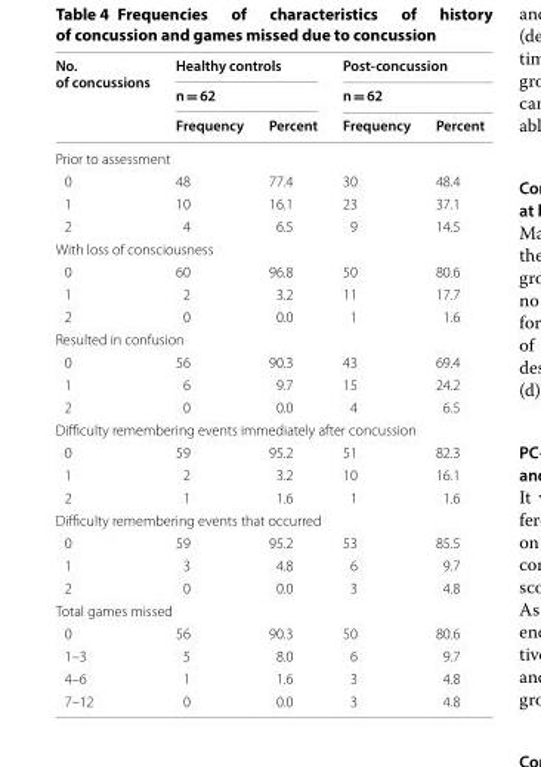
<table><thead><tr><td rowspan="3">No. of concussions</td><td rowspan="2" colspan="2">Healthy controls n = 62</td><td rowspan="2" colspan="2">Post-concussion n = 62</td></tr><tr></tr><tr><td>Frequency</td><td>Percent</td><td>Frequency</td><td>Percent</td></tr></thead><tbody><tr><td colspan="5">Prior to assessment</td></tr><tr><td>0</td><td>48</td><td>77.4</td><td>30</td><td>48.4</td></tr><tr><td>1</td><td>10</td><td>16.1</td><td>23</td><td>37.1</td></tr><tr><td>2</td><td>4</td><td>6.5</td><td>9</td><td>14.5</td></tr><tr><td colspan="5">With loss of consciousness</td></tr><tr><td>0</td><td>60</td><td>96.8</td><td>50</td><td>80.6</td></tr><tr><td>1</td><td>2</td><td>3.2</td><td>11</td><td>17.7</td></tr><tr><td>2</td><td>0</td><td>0.0</td><td>1</td><td>1.6</td></tr><tr><td colspan="5">Resulted in confusion</td></tr><tr><td>0</td><td>56</td><td>90.3</td><td>43</td><td>69.4</td></tr><tr><td>1</td><td>6</td><td>9.7</td><td>15</td><td>24.2</td></tr><tr><td>2</td><td>0</td><td>0.0</td><td>4</td><td>6.5</td></tr><tr><td colspan="5">Difficulty remembering events immediately after concussion</td></tr><tr><td>0</td><td>59</td><td>95.2</td><td>51</td><td>82.3</td></tr><tr><td>1</td><td>2</td><td>3.2</td><td>10</td><td>16.1</td></tr><tr><td>2</td><td>1</td><td>1.6</td><td>1</td><td>1.6</td></tr><tr><td colspan="5">Difficulty remembering events that occurred</td></tr><tr><td>0</td><td>59</td><td>95.2</td><td>53</td><td>85.5</td></tr><tr><td>1</td><td>3</td><td>4.8</td><td>6</td><td>9.7</td></tr><tr><td>2</td><td>0</td><td>0.0</td><td>3</td><td>4.8</td></tr><tr><td colspan="5">Total games missed</td></tr><tr><td>0</td><td>56</td><td>90.3</td><td>50</td><td>80.6</td></tr><tr><td>1–3</td><td>5</td><td>8.0</td><td>6</td><td>9.7</td></tr><tr><td>4–6</td><td>1</td><td>1.6</td><td>3</td><td>4.8</td></tr><tr><td>7–12</td><td>0</td><td>0.0</td><td>3</td><td>4.8</td></tr></tbody></table>